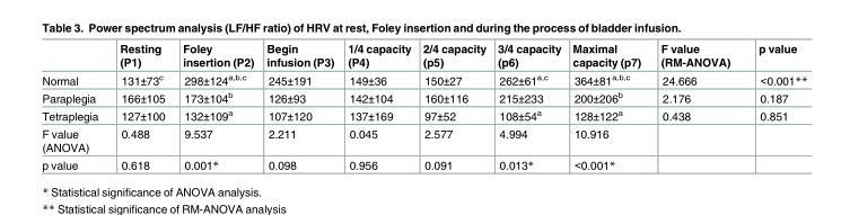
<table><thead><tr><td></td><td>Resting (P1)</td><td>Foley insertion (P2)</td><td>Begin infusion (P3)</td><td>1/4 capacity (P4)</td><td>2/4 capacity (p5)</td><td>3/4 capacity (p6)</td><td>Maximal capacity (p7)</td><td>F value (RM-ANOVA)</td><td>p value</td></tr></thead><tbody><tr><td>Normal</td><td>131±73<sup>c</sup></td><td>298±124<sup>a,b,c</sup></td><td>245±191</td><td>149±36</td><td>150±27</td><td>262±61<sup>a,c</sup></td><td>364±81<sup>a,b,c</sup></td><td>24.666</td><td>&lt;0.001**</td></tr><tr><td>Paraplegia</td><td>166±105</td><td>173±104<sup>b</sup></td><td>126±93</td><td>142±104</td><td>160±116</td><td>215±233</td><td>200±206<sup>b</sup></td><td>2.176</td><td>0.187</td></tr><tr><td>Tetraplegia</td><td>127±100</td><td>132±109<sup>a</sup></td><td>107±120</td><td>137±169</td><td>97±52</td><td>108±54<sup>a</sup></td><td>128±122<sup>a</sup></td><td>0.438</td><td>0.851</td></tr><tr><td>F value (ANOVA)</td><td>0.488</td><td>9.537</td><td>2.211</td><td>0.045</td><td>2.577</td><td>4.994</td><td>10.916</td><td></td><td></td></tr><tr><td>p value</td><td>0.618</td><td>0.001*</td><td>0.098</td><td>0.956</td><td>0.091</td><td>0.013*</td><td>&lt;0.001*</td><td></td><td></td></tr></tbody></table>